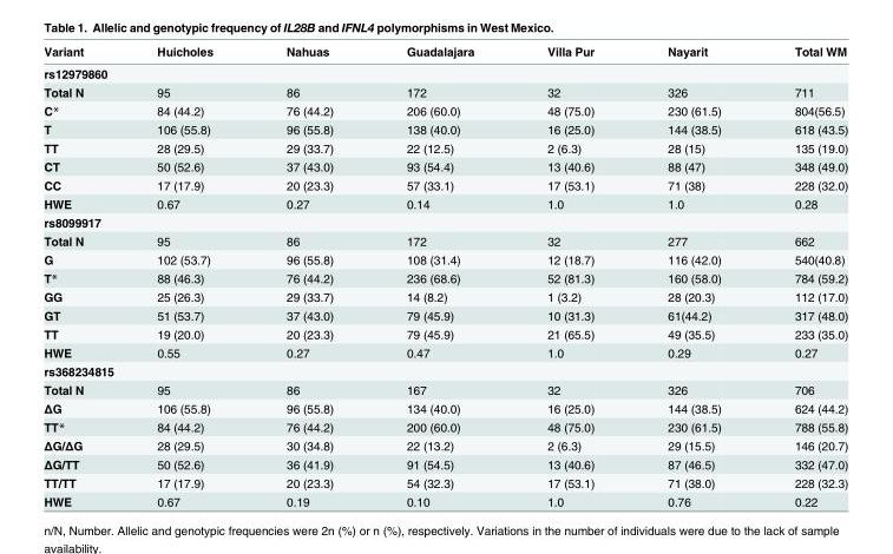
<table><thead><tr><td>Variant</td><td>Huicholes</td><td>Nahuas</td><td>Guadalajara</td><td>Villa Pur</td><td>Nayarit</td><td>Total WM</td></tr></thead><tbody><tr><td colspan="7">rs12979860</td></tr><tr><td>Total N</td><td>95</td><td>86</td><td>172</td><td>32</td><td>326</td><td>711</td></tr><tr><td>C*</td><td>84 (44.2)</td><td>76 (44.2)</td><td>206 (60.0)</td><td>48 (75.0)</td><td>230 (61.5)</td><td>804(56.5)</td></tr><tr><td>T</td><td>106 (55.8)</td><td>96 (55.8)</td><td>138 (40.0)</td><td>16 (25.0)</td><td>144 (38.5)</td><td>618 (43.5)</td></tr><tr><td>TT</td><td>28 (29.5)</td><td>29 (33.7)</td><td>22 (12.5)</td><td>2 (6.3)</td><td>28 (15)</td><td>135 (19.0)</td></tr><tr><td>CT</td><td>50 (52.6)</td><td>37 (43.0)</td><td>93 (54.4)</td><td>13 (40.6)</td><td>88 (47)</td><td>348 (49.0)</td></tr><tr><td>CC</td><td>17 (17.9)</td><td>20 (23.3)</td><td>57 (33.1)</td><td>17 (53.1)</td><td>71 (38)</td><td>228 (32.0)</td></tr><tr><td>HWE</td><td>0.67</td><td>0.27</td><td>0.14</td><td>1.0</td><td>1.0</td><td>0.28</td></tr><tr><td colspan="7">rs8099917</td></tr><tr><td>Total N</td><td>95</td><td>86</td><td>172</td><td>32</td><td>277</td><td>662</td></tr><tr><td>G</td><td>102 (53.7)</td><td>96 (55.8)</td><td>108 (31.4)</td><td>12 (18.7)</td><td>116 (42.0)</td><td>540(40.8)</td></tr><tr><td>T*</td><td>88 (46.3)</td><td>76 (44.2)</td><td>236 (68.6)</td><td>52 (81.3)</td><td>160 (58.0)</td><td>784 (59.2)</td></tr><tr><td>GG</td><td>25 (26.3)</td><td>29 (33.7)</td><td>14 (8.2)</td><td>1 (3.2)</td><td>28 (20.3)</td><td>112 (17.0)</td></tr><tr><td>GT</td><td>51 (53.7)</td><td>37 (43.0)</td><td>79 (45.9)</td><td>10 (31.3)</td><td>61(44.2)</td><td>317 (48.0)</td></tr><tr><td>TT</td><td>19 (20.0)</td><td>20 (23.3)</td><td>79 (45.9)</td><td>21 (65.5)</td><td>49 (35.5)</td><td>233 (35.0)</td></tr><tr><td>HWE</td><td>0.55</td><td>0.27</td><td>0.47</td><td>1.0</td><td>0.29</td><td>0.27</td></tr><tr><td colspan="7">rs368234815</td></tr><tr><td>Total N</td><td>95</td><td>86</td><td>167</td><td>32</td><td>326</td><td>706</td></tr><tr><td>ΔG</td><td>106 (55.8)</td><td>96 (55.8)</td><td>134 (40.0)</td><td>16 (25.0)</td><td>144 (38.5)</td><td>624 (44.2)</td></tr><tr><td>TT*</td><td>84 (44.2)</td><td>76 (44.2)</td><td>200 (60.0)</td><td>48 (75.0)</td><td>230 (61.5)</td><td>788 (55.8)</td></tr><tr><td>ΔG/ΔG</td><td>28 (29.5)</td><td>30 (34.8)</td><td>22 (13.2)</td><td>2 (6.3)</td><td>29 (15.5)</td><td>146 (20.7)</td></tr><tr><td>ΔG/TT</td><td>50 (52.6)</td><td>36 (41.9)</td><td>91 (54.5)</td><td>13 (40.6)</td><td>87 (46.5)</td><td>332 (47.0)</td></tr><tr><td>TT/TT</td><td>17 (17.9)</td><td>20 (23.3)</td><td>54 (32.3)</td><td>17 (53.1)</td><td>71 (38.0)</td><td>228 (32.3)</td></tr><tr><td>HWE</td><td>0.67</td><td>0.19</td><td>0.10</td><td>1.0</td><td>0.76</td><td>0.22</td></tr></tbody></table>